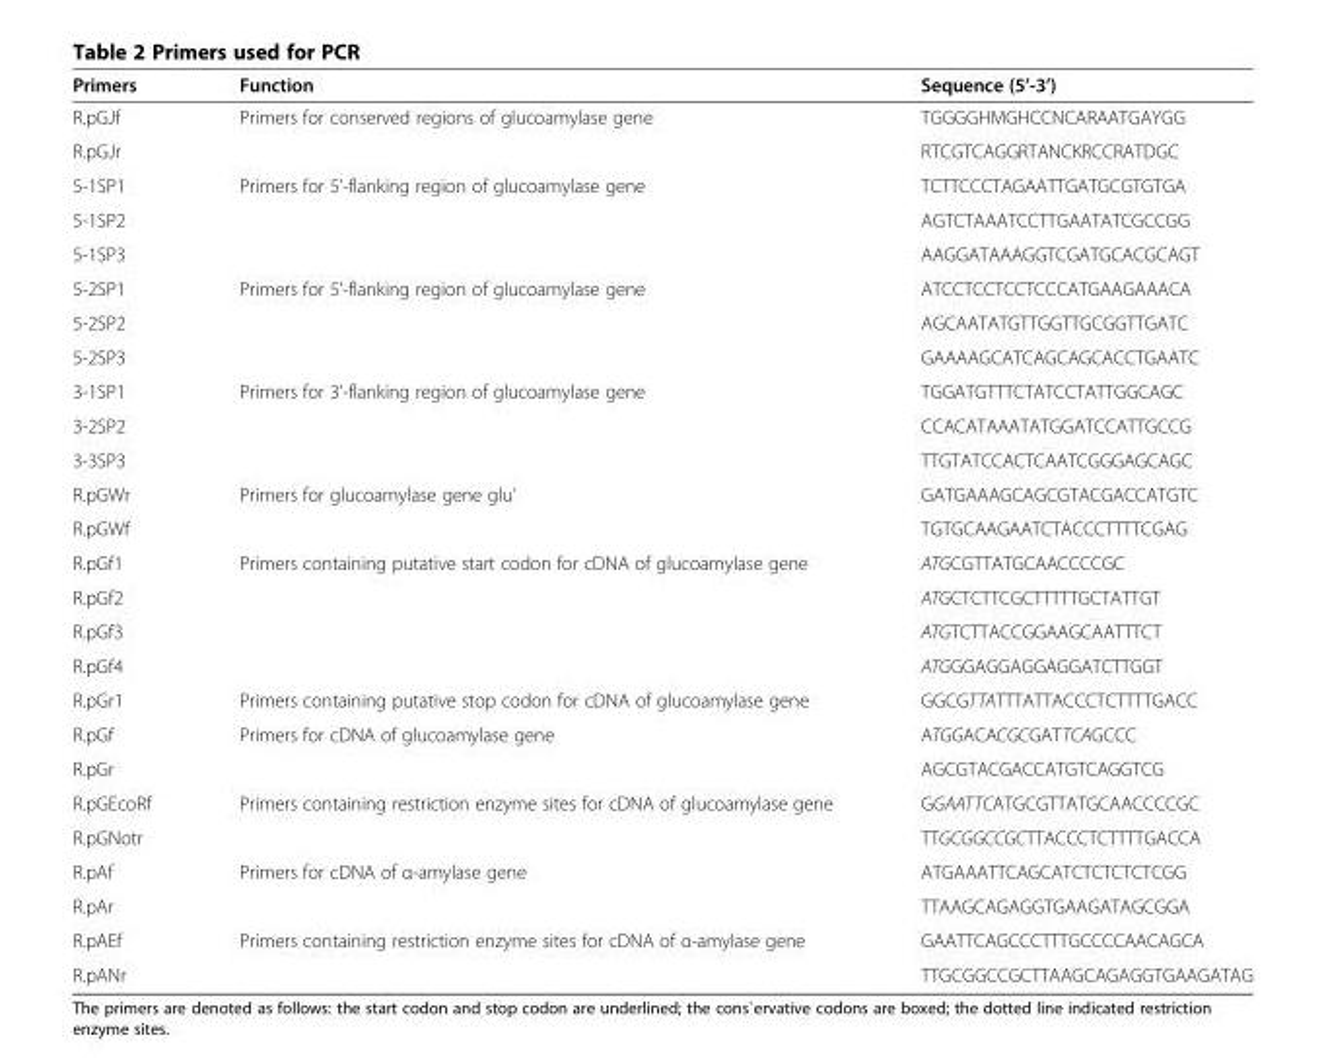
<table><thead><tr><td>Primers</td><td>Function</td><td>Sequence (5’-3’)</td></tr></thead><tbody><tr><td>R.pGJf</td><td rowspan="2">Primers for conserved regions of glucoamylase gene</td><td>TGGGGHMGHCCNCARAATGAYGG</td></tr><tr><td>R.pGJr</td><td>RTCGTCAGGRTANCKRCCRATDGC</td></tr><tr><td>5-1SP1</td><td rowspan="3">Primers for 5’-flanking region of glucoamylase gene</td><td>TCTTCCCTAGAATTGATGCGTGTGA</td></tr><tr><td>5-1SP2</td><td>AGTCTAAATCCTTGAATATCGCCGG</td></tr><tr><td>5-1SP3</td><td>AAGGATAAAGGTCGATGCACGCAGT</td></tr><tr><td>5-2SP1</td><td rowspan="3">Primers for 5’-flanking region of glucoamylase gene</td><td>ATCCTCCTCCTCCCATGAAGAAACA</td></tr><tr><td>5-2SP2</td><td>AGCAATATGTTGGTTGCGGTTGATC</td></tr><tr><td>5-2SP3</td><td>GAAAAGCATCAGCAGCACCTGAATC</td></tr><tr><td>3-1SP1</td><td rowspan="3">Primers for 3’-flanking region of glucoamylase gene</td><td>TGGATGTTTCTATCCTATTGGCAGC</td></tr><tr><td>3-2SP2</td><td>CCACATAAATATGGATCCATTGCCG</td></tr><tr><td>3-3SP3</td><td>TTGTATCCACTCAATCGGGAGCAGC</td></tr><tr><td>R.pGWr</td><td rowspan="2">Primers for glucoamylase gene glu’</td><td>GATGAAAGCAGCGTACGACCATGTC</td></tr><tr><td>R.pGWf</td><td>TGTGCAAGAATCTACCCTTTTCGAG</td></tr><tr><td>R.pGf1</td><td rowspan="4">Primers containing putative start codon for cDNA of glucoamylase gene</td><td>ATGCGTTATGCAACCCCGC</td></tr><tr><td>R.pGf2</td><td>ATGCTCTTCGCTTTTTGCTATTGT</td></tr><tr><td>R.pGf3</td><td>ATGTCTTACCGGAAGCAATTTCT</td></tr><tr><td>R.pGf4</td><td>ATGGGAGGAGGAGGATCTTGGT</td></tr><tr><td>R.pGr1</td><td>Primers containing putative stop codon for cDNA of glucoamylase gene</td><td>GGCGTTATTTATTACCCTCTTTTGACC</td></tr><tr><td>R.pGf</td><td rowspan="2">Primers for cDNA of glucoamylase gene</td><td>ATGGACACGCGATTCAGCCC</td></tr><tr><td>R.pGr</td><td>AGCGTACGACCATGTCAGGTCG</td></tr><tr><td>R.pGEcoRf</td><td rowspan="2">Primers containing restriction enzyme sites for cDNA of glucoamylase gene</td><td>GGAATTCATGCGTTATGCAACCCCGC</td></tr><tr><td>R.pGNotr</td><td>TTGCGGCCGCTTACCCTCTTTTGACCA</td></tr><tr><td>R.pAf</td><td rowspan="2">Primers for cDNA of α-amylase gene</td><td>ATGAAATTCAGCATCTCTCTCTCGG</td></tr><tr><td>R.pAr</td><td>TTAAGCAGAGGTGAAGATAGCGGA</td></tr><tr><td>R.pAEf</td><td rowspan="2">Primers containing restriction enzyme sites for cDNA of α-amylase gene</td><td>GAATTCAGCCCTTTGCCCCAACAGCA</td></tr><tr><td>R.pANr</td><td>TTGCGGCCGCTTAAGCAGAGGTGAAGATAG</td></tr></tbody></table>